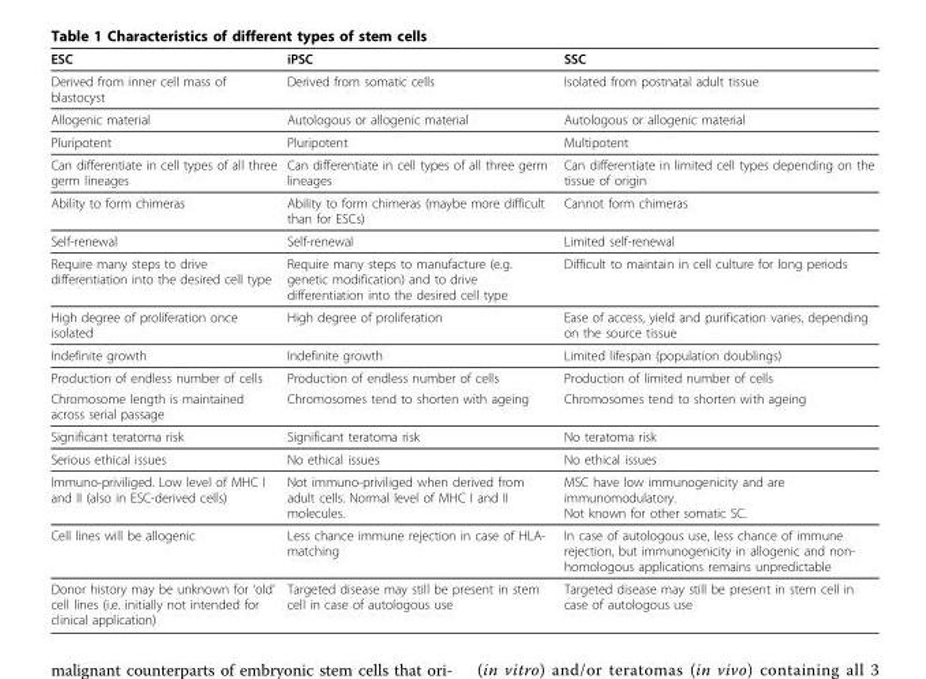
<table><thead><tr><td>ESC</td><td>iPSC</td><td>SSC</td></tr></thead><tbody><tr><td>Derived from inner cell mass of blastocyst</td><td>Derived from somatic cells</td><td>Isolated from postnatal adult tissue</td></tr><tr><td>Allogenic material</td><td>Autologous or allogenic material</td><td>Autologous or allogenic material</td></tr><tr><td>Pluripotent</td><td>Pluripotent</td><td>Multipotent</td></tr><tr><td>Can differentiate in cell types of all three germ lineages</td><td>Can differentiate in cell types of all three germ lineages</td><td>Can differentiate in limited cell types depending on the tissue of origin</td></tr><tr><td>Ability to form chimeras</td><td>Ability to form chimeras (maybe more difficult than for ESCs)</td><td>Cannot form chimeras</td></tr><tr><td>Self-renewal</td><td>Self-renewal</td><td>Limited self-renewal</td></tr><tr><td>Require many steps to drive differentiation into the desired cell type</td><td>Require many steps to manufacture (e.g. genetic modification) and to drive differentiation into the desired cell type</td><td>Difficult to maintain in cell culture for long periods</td></tr><tr><td>High degree of proliferation once isolated</td><td>High degree of proliferation</td><td>Ease of access, yield and purification varies, depending on the source tissue</td></tr><tr><td>Indefinite growth</td><td>Indefinite growth</td><td>Limited lifespan (population doublings)</td></tr><tr><td>Production of endless number of cells</td><td>Production of endless number of cells</td><td>Production of limited number of cells</td></tr><tr><td>Chromosome length is maintained across serial passage</td><td>Chromosomes tend to shorten with ageing</td><td>Chromosomes tend to shorten with ageing</td></tr><tr><td>Significant teratoma risk</td><td>Significant teratoma risk</td><td>No teratoma risk</td></tr><tr><td>Serious ethical issues</td><td>No ethical issues</td><td>No ethical issues</td></tr><tr><td>Immuno-priviliged. Low level of MHC I and II (also in ESC-derived cells)</td><td>Not immuno-priviliged when derived from adult cells. Normal level of MHC I and II molecules.</td><td>MSC have low immunogenicity and are immunomodulatory. Not known for other somatic SC.</td></tr><tr><td>Cell lines will be allogenic</td><td>Less chance immune rejection in case of HLA- matching</td><td>In case of autologous use, less chance of immune rejection, but immunogenicity in allogenic and non- homologous applications remains unpredictable</td></tr><tr><td>Donor history may be unknown for ‘old’ cell lines (i.e. initially not intended for clinical application)</td><td>Targeted disease may still be present in stem cell in case of autologous use</td><td>Targeted disease may still be present in stem cell in case of autologous use</td></tr></tbody></table>